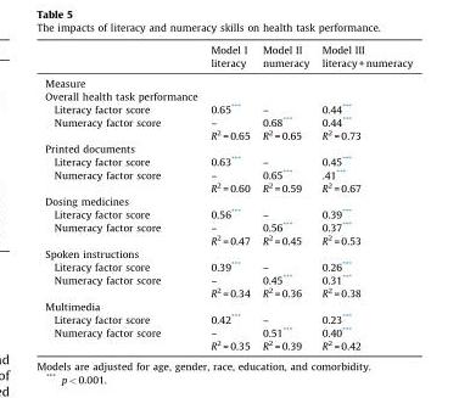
<table><thead><tr><td></td><td>Model I literacy</td><td>Model II numeracy</td><td>Model III literacy + numeracy</td></tr></thead><tbody><tr><td colspan="4">Measure</td></tr><tr><td colspan="4">Overall health task performance</td></tr><tr><td>Literacy factor score</td><td>0.65***</td><td>–</td><td>0.44***</td></tr><tr><td rowspan="2">Numeracy factor score</td><td>–</td><td>0.68***</td><td>0.44***</td></tr><tr><td>R<sup>2</sup> = 0.65</td><td>R<sup>2</sup> = 0.65</td><td>R<sup>2</sup> = 0.73</td></tr><tr><td colspan="4">Printed documents</td></tr><tr><td>Literacy factor score</td><td>0.63***</td><td>–</td><td>0.45***</td></tr><tr><td rowspan="2">Numeracy factor score</td><td>–</td><td>0.65***</td><td>.41***</td></tr><tr><td>R<sup>2</sup> = 0.60</td><td>R<sup>2</sup> = 0.59</td><td>R<sup>2</sup> = 0.67</td></tr><tr><td colspan="4">Dosing medicines</td></tr><tr><td>Literacy factor score</td><td>0.56***</td><td>–</td><td>0.39***</td></tr><tr><td rowspan="2">Numeracy factor score</td><td>–</td><td>0.56***</td><td>0.37***</td></tr><tr><td>R<sup>2</sup> = 0.47</td><td>R<sup>2</sup> = 0.45</td><td>R<sup>2</sup> = 0.53</td></tr><tr><td colspan="4">Spoken instructions</td></tr><tr><td>Literacy factor score</td><td>0.39***</td><td>–</td><td>0.26***</td></tr><tr><td rowspan="2">Numeracy factor score</td><td>–</td><td>0.45***</td><td>0.31***</td></tr><tr><td>R<sup>2</sup> = 0.34</td><td>R<sup>2</sup> = 0.36</td><td>R<sup>2</sup> = 0.38</td></tr><tr><td colspan="4">Multimedia</td></tr><tr><td>Literacy factor score</td><td>0.42***</td><td>–</td><td>0.23***</td></tr><tr><td rowspan="2">Numeracy factor score</td><td>–</td><td>0.51***</td><td>0.40***</td></tr><tr><td>R<sup>2</sup> = 0.35</td><td>R<sup>2</sup> = 0.39</td><td>R<sup>2</sup> = 0.42</td></tr></tbody></table>